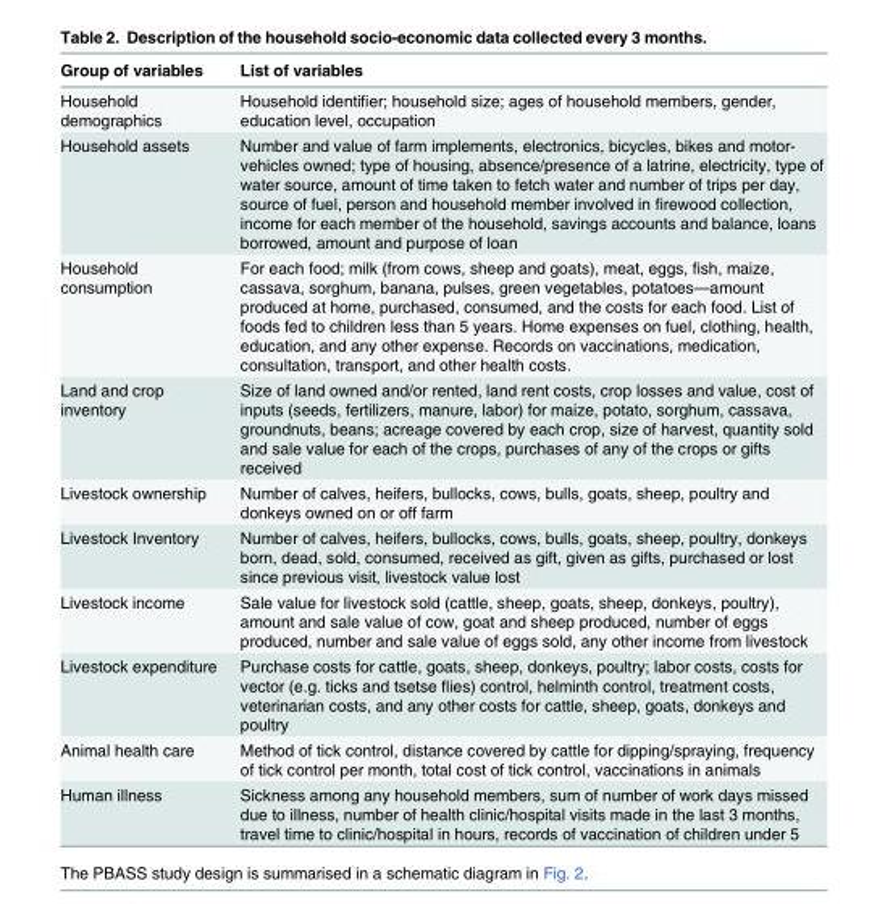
<table><thead><tr><td>Group of variables</td><td>List of variables</td></tr></thead><tbody><tr><td>Household demographics</td><td>Household identifier; household size; ages of household members, gender, education level, occupation</td></tr><tr><td>Household assets</td><td>Number and value of farm implements, electronics, bicycles, bikes and motor- vehicles owned; type of housing, absence/presence of a latrine, electricity, type of water source, amount of time taken to fetch water and number of trips per day, source of fuel, person and household member involved in firewood collection, income for each member of the household, savings accounts and balance, loans borrowed, amount and purpose of loan</td></tr><tr><td>Household consumption</td><td>For each food; milk (from cows, sheep and goats), meat, eggs, fish, maize, cassava, sorghum, banana, pulses, green vegetables, potatoes—amount produced at home, purchased, consumed, and the costs for each food. List of foods fed to children less than 5 years. Home expenses on fuel, clothing, health, education, and any other expense. Records on vaccinations, medication, consultation, transport, and other health costs.</td></tr><tr><td>Land and crop inventory</td><td>Size of land owned and/or rented, land rent costs, crop losses and value, cost of inputs (seeds, fertilizers, manure, labor) for maize, potato, sorghum, cassava, groundnuts, beans; acreage covered by each crop, size of harvest, quantity sold and sale value for each of the crops, purchases of any of the crops or gifts received</td></tr><tr><td>Livestock ownership</td><td>Number of calves, heifers, bullocks, cows, bulls, goats, sheep, poultry and donkeys owned on or off farm</td></tr><tr><td>Livestock Inventory</td><td>Number of calves, heifers, bullocks, cows, bulls, goats, sheep, poultry, donkeys born, dead, sold, consumed, received as gift, given as gifts, purchased or lost since previous visit, livestock value lost</td></tr><tr><td>Livestock income</td><td>Sale value for livestock sold (cattle, sheep, goats, sheep, donkeys, poultry), amount and sale value of cow, goat and sheep produced, number of eggs produced, number and sale value of eggs sold, any other income from livestock</td></tr><tr><td>Livestock expenditure</td><td>Purchase costs for cattle, goats, sheep, donkeys, poultry; labor costs, costs for vector (e.g. ticks and tsetse flies) control, helminth control, treatment costs, veterinarian costs, and any other costs for cattle, sheep, goats, donkeys and poultry</td></tr><tr><td>Animal health care</td><td>Method of tick control, distance covered by cattle for dipping/spraying, frequency of tick control per month, total cost of tick control, vaccinations in animals</td></tr><tr><td>Human illness</td><td>Sickness among any household members, sum of number of work days missed due to illness, number of health clinic/hospital visits made in the last 3 months, travel time to clinic/hospital in hours, records of vaccination of children under 5</td></tr></tbody></table>